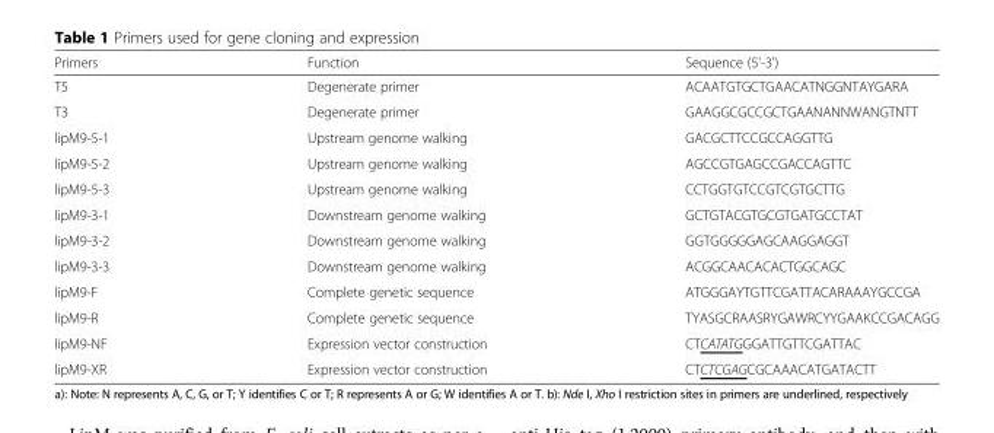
<table><thead><tr><td>Primers</td><td>Function</td><td>Sequence (5&#x27;-3&#x27;)</td></tr></thead><tbody><tr><td>T5</td><td>Degenerate primer</td><td>ACAATGTGCTGAACATNGGNTAYGARA</td></tr><tr><td>T3</td><td>Degenerate primer</td><td>GAAGGCGCCGCTGAANANNWANGTNTT</td></tr><tr><td>lipM9-5-1</td><td>Upstream genome walking</td><td>GACGCTTCCGCCAGGTTG</td></tr><tr><td>lipM9-5-2</td><td>Upstream genome walking</td><td>AGCCGTGAGCCGACCAGTTC</td></tr><tr><td>lipM9-5-3</td><td>Upstream genome walking</td><td>CCTGGTGTCCGTCGTGCTTG</td></tr><tr><td>lipM9-3-1</td><td>Downstream genome walking</td><td>GCTGTACGTGCGTGATGCCTAT</td></tr><tr><td>lipM9-3-2</td><td>Downstream genome walking</td><td>GGTGGGGGAGCAAGGAGGT</td></tr><tr><td>lipM9-3-3</td><td>Downstream genome walking</td><td>ACGGCAACACACTGGCAGC</td></tr><tr><td>lipM9-F</td><td>Complete genetic sequence</td><td>ATGGGAYTGTTCGATTACARAAAYGCCGA</td></tr><tr><td>lipM9-R</td><td>Complete genetic sequence</td><td>TYASGCRAASRYGAWRCYYGAAKCCGACAGG</td></tr><tr><td>lipM9-NF</td><td>Expression vector construction</td><td>CTCATATGGGATTGTTCGATTAC</td></tr><tr><td>lipM9-XR</td><td>Expression vector construction</td><td>CTCTCGAGCGCAAACATGATACTT</td></tr></tbody></table>